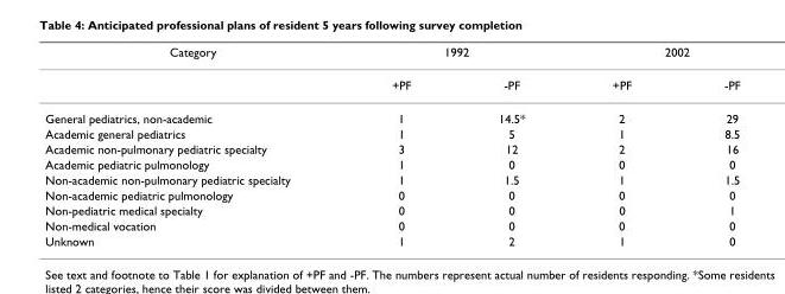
<table><thead><tr><td rowspan="2">Category</td><td colspan="2">1992</td><td colspan="2">2002</td></tr><tr><td>+PF</td><td>-PF</td><td>+PF</td><td>-PF</td></tr></thead><tbody><tr><td>General pediatrics, non-academic</td><td>1</td><td>14.5*</td><td>2</td><td>29</td></tr><tr><td>Academic general pediatrics</td><td>1</td><td>5</td><td>1</td><td>8.5</td></tr><tr><td>Academic non-pulmonary pediatric specialty</td><td>3</td><td>12</td><td>2</td><td>16</td></tr><tr><td>Academic pediatric pulmonology</td><td>1</td><td>0</td><td>0</td><td>0</td></tr><tr><td>Non-academic non-pulmonary pediatric specialty</td><td>1</td><td>1.5</td><td>1</td><td>1.5</td></tr><tr><td>Non-academic pediatric pulmonology</td><td>0</td><td>0</td><td>0</td><td>0</td></tr><tr><td>Non-pediatric medical specialty</td><td>0</td><td>0</td><td>0</td><td>1</td></tr><tr><td>Non-medical vocation</td><td>0</td><td>0</td><td>0</td><td>0</td></tr><tr><td>Unknown</td><td>1</td><td>2</td><td>1</td><td>0</td></tr></tbody></table>